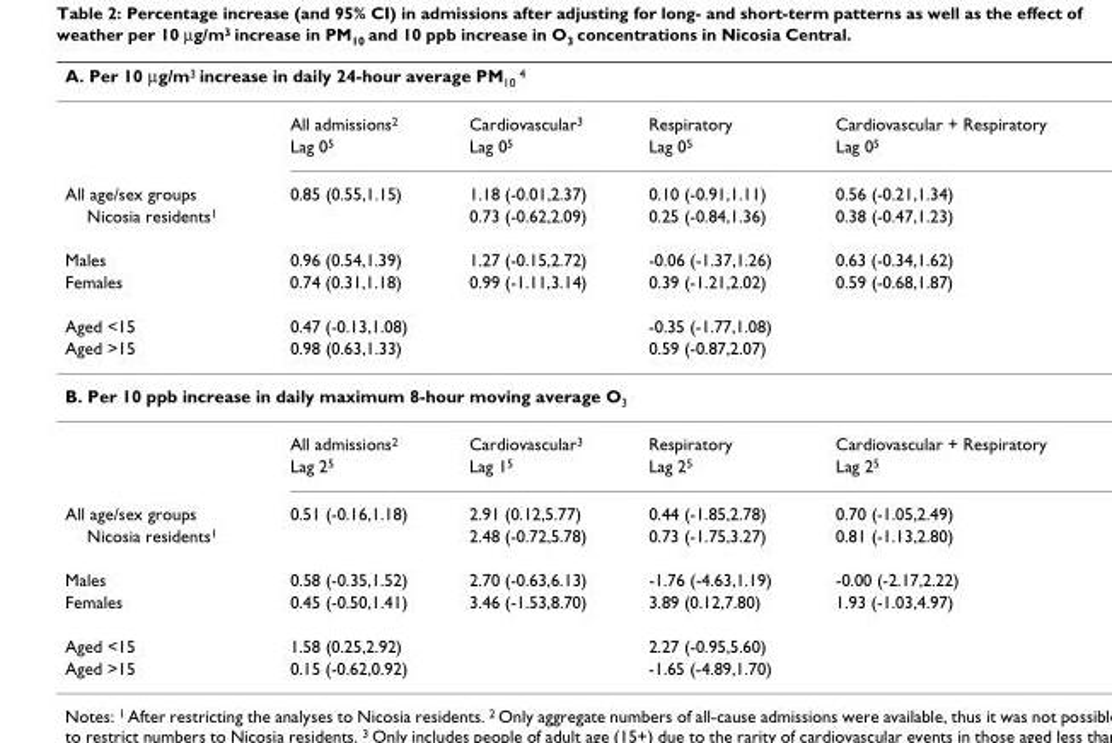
<table><thead><tr><td colspan="5">A. Per 10 μg/m<sup>3</sup> increase in daily 24-hour average PM<sub>10</sub> <sup>4</sup></td></tr><tr><td></td><td>All admissions<sup>2</sup></td><td>Cardiovascular<sup>3</sup></td><td>Respiratory</td><td>Cardiovascular + Respiratory</td></tr></thead><tbody><tr><td></td><td>Lag 0<sup>5</sup></td><td>Lag 0<sup>5</sup></td><td>Lag 0<sup>5</sup></td><td>Lag 0<sup>5</sup></td></tr><tr><td>All age/sex groups</td><td>0.85 (0.55,1.15)</td><td>1.18 (-0.01,2.37)</td><td>0.10 (-0.91,1.11)</td><td>0.56 (-0.21,1.34)</td></tr><tr><td>Nicosia residents<sup>1</sup></td><td></td><td>0.73 (-0.62,2.09)</td><td>0.25 (-0.84,1.36)</td><td>0.38 (-0.47,1.23)</td></tr><tr><td>Males</td><td>0.96 (0.54,1.39)</td><td>1.27 (-0.15,2.72)</td><td>-0.06 (-1.37,1.26)</td><td>0.63 (-0.34,1.62)</td></tr><tr><td>Females</td><td>0.74 (0.31,1.18)</td><td>0.99 (-1.11,3.14)</td><td>0.39 (-1.21,2.02)</td><td>0.59 (-0.68,1.87)</td></tr><tr><td>Aged &lt;15</td><td>0.47 (-0.13,1.08)</td><td></td><td>-0.35 (-1.77,1.08)</td><td></td></tr><tr><td>Aged &gt;15</td><td>0.98 (0.63,1.33)</td><td></td><td>0.59 (-0.87,2.07)</td><td></td></tr><tr><td colspan="5">B. Per 10 ppb increase in daily maximum 8-hour moving average O<sub>3</sub></td></tr><tr><td></td><td>All admissions<sup>2</sup></td><td>Cardiovascular<sup>3</sup></td><td>Respiratory</td><td>Cardiovascular + Respiratory</td></tr><tr><td></td><td>Lag 2<sup>5</sup></td><td>Lag 1<sup>5</sup></td><td>Lag 2<sup>5</sup></td><td>Lag 2<sup>5</sup></td></tr><tr><td>All age/sex groups</td><td>0.51 (-0.16,1.18)</td><td>2.91 (0.12,5.77)</td><td>0.44 (-1.85,2.78)</td><td>0.70 (-1.05,2.49)</td></tr><tr><td>Nicosia residents<sup>1</sup></td><td></td><td>2.48 (-0.72,5.78)</td><td>0.73 (-1.75,3.27)</td><td>0.81 (-1.13,2.80)</td></tr><tr><td>Males</td><td>0.58 (-0.35,1.52)</td><td>2.70 (-0.63,6.13)</td><td>-1.76 (-4.63,1.19)</td><td>-0.00 (-2.17,2.22)</td></tr><tr><td>Females</td><td>0.45 (-0.50,1.41)</td><td>3.46 (-1.53,8.70)</td><td>3.89 (0.12,7.80)</td><td>1.93 (-1.03,4.97)</td></tr><tr><td>Aged &lt;15</td><td>1.58 (0.25,2.92)</td><td></td><td>2.27 (-0.95,5.60)</td><td></td></tr><tr><td>Aged &gt;15</td><td>0.15 (-0.62,0.92)</td><td></td><td>-1.65 (-4.89,1.70)</td><td></td></tr></tbody></table>